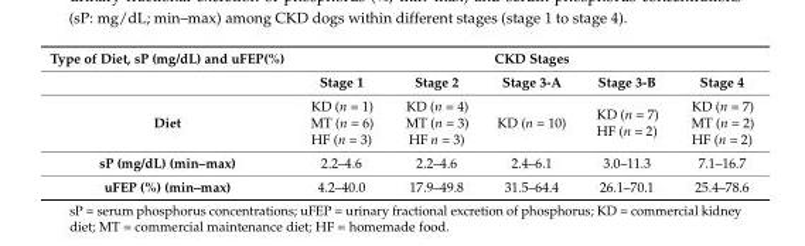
<table><thead><tr><td rowspan="2">Type of Diet, sP (mg/dL) and uFEP(%)</td><td colspan="5">CKD Stages</td></tr><tr><td>Stage 1</td><td>Stage 2</td><td>Stage 3-A</td><td>Stage 3-B</td><td>Stage 4</td></tr></thead><tbody><tr><td>Diet</td><td>KD (n = 1) MT (n = 6) HF (n = 3)</td><td>KD (n = 4) MT (n = 3) HF n = 3)</td><td>KD (n = 10)</td><td>KD (n = 7) HF (n = 2)</td><td>KD (n = 7) MT (n = 2) HF (n = 2)</td></tr><tr><td>sP (mg/dL) (min–max)</td><td>2.2–4.6</td><td>2.2–4.6</td><td>2.4–6.1</td><td>3.0–11.3</td><td>7.1–16.7</td></tr><tr><td>uFEP (%) (min–max)</td><td>4.2–40.0</td><td>17.9–49.8</td><td>31.5–64.4</td><td>26.1–70.1</td><td>25.4–78.6</td></tr></tbody></table>